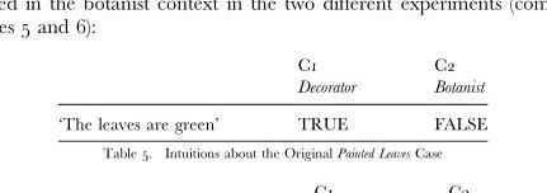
<table><thead><tr><td rowspan="2"></td><td rowspan="2">C1 Decorator</td><td rowspan="2">C2 Botanist</td></tr><tr></tr></thead><tbody><tr><td>‘The leaves are green’</td><td>TRUE</td><td>FALSE</td></tr></tbody></table>